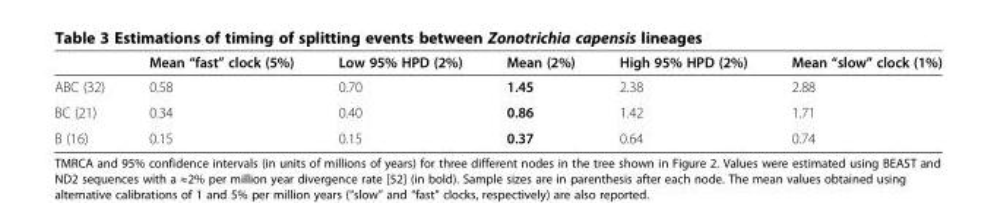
<table><thead><tr><td></td><td>Mean “fast” clock (5%)</td><td>Low 95% HPD (2%)</td><td>Mean (2%)</td><td>High 95% HPD (2%)</td><td>Mean “slow” clock (1%)</td></tr></thead><tbody><tr><td>ABC (32)</td><td>0.58</td><td>0.70</td><td>1.45</td><td>2.38</td><td>2.88</td></tr><tr><td>BC (21)</td><td>0.34</td><td>0.40</td><td>0.86</td><td>1.42</td><td>1.71</td></tr><tr><td>B (16)</td><td>0.15</td><td>0.15</td><td>0.37</td><td>0.64</td><td>0.74</td></tr></tbody></table>